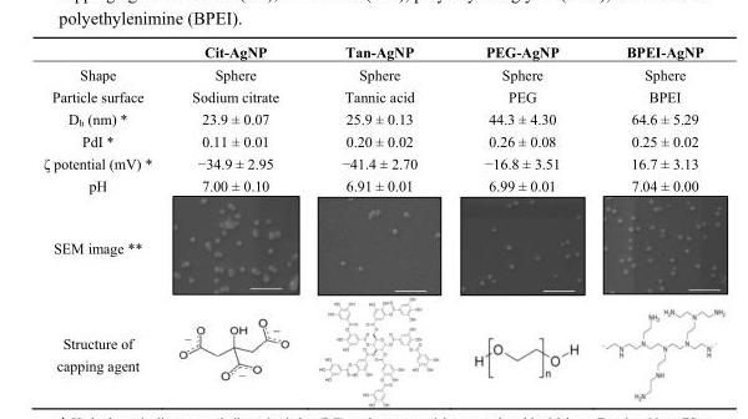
<table><thead><tr><td></td><td>Cit-AgNP</td><td>Tan-AgNP</td><td>PEG-AgNP</td><td>BPEI-AgNP</td></tr></thead><tbody><tr><td>Shape</td><td>Sphere</td><td>Sphere</td><td>Sphere</td><td>Sphere</td></tr><tr><td>Particle surface</td><td>Sodium citrate</td><td>Tannic acid</td><td>PEG</td><td>BPEI</td></tr><tr><td>D<sub>h</sub> (nm) *</td><td>23.9 ± 0.07</td><td>25.9 ± 0.13</td><td>44.3 ± 4.30</td><td>64.6 ± 5.29</td></tr><tr><td>PdI *</td><td>0.11 ± 0.01</td><td>0.20 ± 0.02</td><td>0.26 ± 0.08</td><td>0.25 ± 0.02</td></tr><tr><td>ζ potential (mV) *</td><td>−34.9 ± 2.95</td><td>−41.4 ± 2.70</td><td>−16.8 ± 3.51</td><td>16.7 ± 3.13</td></tr><tr><td>pH</td><td>7.00 ± 0.10</td><td>6.91 ± 0.01</td><td>6.99 ± 0.01</td><td>7.04 ± 0.00</td></tr><tr><td colspan="5">SEM image **</td></tr><tr><td>Structure of capping agent</td><td></td><td></td><td></td><td></td></tr></tbody></table>